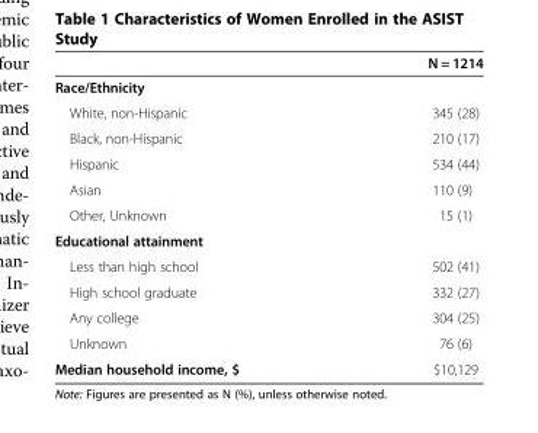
<table><thead><tr><td></td><td>N = 1214</td></tr></thead><tbody><tr><td colspan="2">Race/Ethnicity</td></tr><tr><td>White, non-Hispanic</td><td>345 (28)</td></tr><tr><td>Black, non-Hispanic</td><td>210 (17)</td></tr><tr><td>Hispanic</td><td>534 (44)</td></tr><tr><td>Asian</td><td>110 (9)</td></tr><tr><td>Other, Unknown</td><td>15 (1)</td></tr><tr><td colspan="2">Educational attainment</td></tr><tr><td>Less than high school</td><td>502 (41)</td></tr><tr><td>High school graduate</td><td>332 (27)</td></tr><tr><td>Any college</td><td>304 (25)</td></tr><tr><td>Unknown</td><td>76 (6)</td></tr><tr><td>Median household income, $</td><td>$10,129</td></tr></tbody></table>